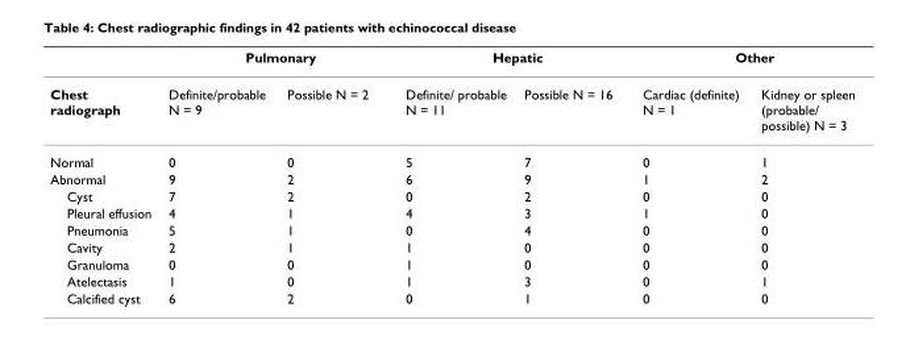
<table><thead><tr><td rowspan="2">Chest radiograph</td><td colspan="2">Pulmonary</td><td colspan="2">Hepatic</td><td colspan="2">Other</td></tr><tr><td>Definite/probable N = 9</td><td>Possible N = 2</td><td>Definite/ probable N = 11</td><td>Possible N = 16</td><td>Cardiac (definite) N = 1</td><td>Kidney or spleen (probable/ possible) N = 3</td></tr></thead><tbody><tr><td>Normal</td><td>0</td><td>0</td><td>5</td><td>7</td><td>0</td><td>1</td></tr><tr><td>Abnormal</td><td>9</td><td>2</td><td>6</td><td>9</td><td>1</td><td>2</td></tr><tr><td>Cyst</td><td>7</td><td>2</td><td>0</td><td>2</td><td>0</td><td>0</td></tr><tr><td>Pleural effusion</td><td>4</td><td>1</td><td>4</td><td>3</td><td>1</td><td>0</td></tr><tr><td>Pneumonia</td><td>5</td><td>1</td><td>0</td><td>4</td><td>0</td><td>0</td></tr><tr><td>Cavity</td><td>2</td><td>1</td><td>1</td><td>0</td><td>0</td><td>0</td></tr><tr><td>Granuloma</td><td>0</td><td>0</td><td>1</td><td>0</td><td>0</td><td>0</td></tr><tr><td>Atelectasis</td><td>1</td><td>0</td><td>1</td><td>3</td><td>0</td><td>1</td></tr><tr><td>Calcified cyst</td><td>6</td><td>2</td><td>0</td><td>1</td><td>0</td><td>0</td></tr></tbody></table>